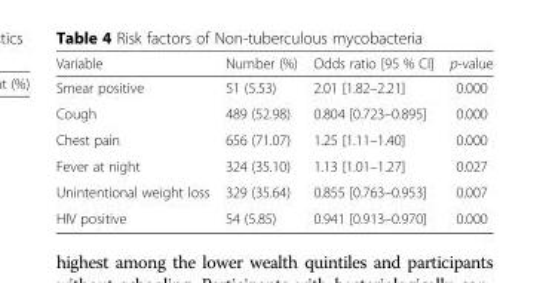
<table><thead><tr><td>Variable</td><td>Number (%)</td><td>Odds ratio [95 % CI]</td><td>p-value</td></tr></thead><tbody><tr><td>Smear positive</td><td>51 (5.53)</td><td>2.01 [1.82–2.21]</td><td>0.000</td></tr><tr><td>Cough</td><td>489 (52.98)</td><td>0.804 [0.723–0.895]</td><td>0.000</td></tr><tr><td>Chest pain</td><td>656 (71.07)</td><td>1.25 [1.11–1.40]</td><td>0.000</td></tr><tr><td>Fever at night</td><td>324 (35.10)</td><td>1.13 [1.01–1.27]</td><td>0.027</td></tr><tr><td>Unintentional weight loss</td><td>329 (35.64)</td><td>0.855 [0.763–0.953]</td><td>0.007</td></tr><tr><td>HIV positive</td><td>54 (5.85)</td><td>0.941 [0.913–0.970]</td><td>0.000</td></tr></tbody></table>